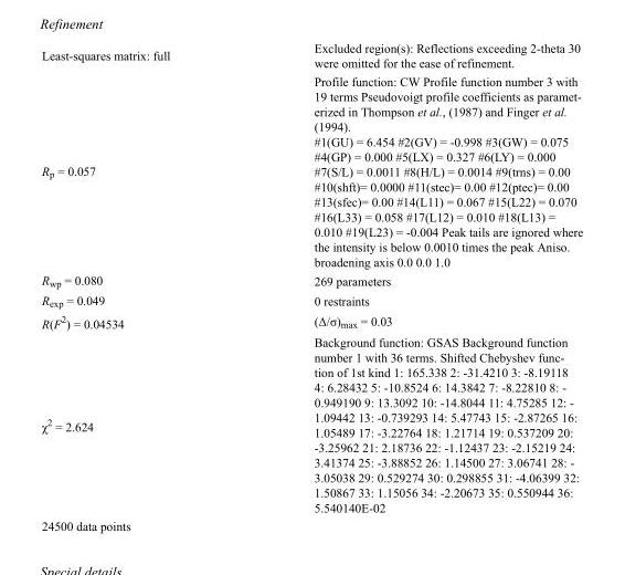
<table><tbody><tr><td>Least-squares matrix: full</td><td>Excluded region(s): Reflections exceeding 2-theta 30 were omitted for the ease of refinement.</td></tr><tr><td>R<sub>p</sub> = 0.057</td><td>Profile function: CW Profile function number 3 with 19 terms Pseudovoigt profile coefficients as paramet- erized in Thompson et al., (1987) and Finger et al. (1994). #1(GU) = 6.454 #2(GV) = -0.998 #3(GW) = 0.075 #4(GP) = 0.000 #5(LX) = 0.327 #6(LY) = 0.000 #7(S/L) = 0.0011 #8(H/L) = 0.0014 #9(trns) = 0.00 #10(shft)= 0.0000 #11(stec)= 0.00 #12(ptec)= 0.00 #13(sfec)= 0.00 #14(L11) = 0.067 #15(L22) = 0.070 #16(L33) = 0.058 #17(L12) = 0.010 #18(L13) = 0.010 #19(L23) = -0.004 Peak tails are ignored where the intensity is below 0.0010 times the peak Aniso. broadening axis 0.0 0.0 1.0</td></tr><tr><td>R<sub>wp</sub> = 0.080</td><td>269 parameters</td></tr><tr><td>R<sub>exp</sub> = 0.049</td><td>0 restraints</td></tr><tr><td>R(F<sup>2</sup>) = 0.04534</td><td>(Δ/σ)<sub>max</sub> = 0.03</td></tr><tr><td>χ<sup>2</sup> = 2.624</td><td>Background function: GSAS Background function number 1 with 36 terms. Shifted Chebyshev func- tion of 1st kind 1: 165.338 2: -31.4210 3: -8.19118 4: 6.28432 5: -10.8524 6: 14.3842 7: -8.22810 8: - 0.949190 9: 13.3092 10: -14.8044 11: 4.75285 12: - 1.09442 13: -0.739293 14: 5.47743 15: -2.87265 16: 1.05489 17: -3.22764 18: 1.21714 19: 0.537209 20: -3.25962 21: 2.18736 22: -1.12437 23: -2.15219 24: 3.41374 25: -3.88852 26: 1.14500 27: 3.06741 28: - 3.05038 29: 0.529274 30: 0.298855 31: -4.06399 32: 1.50867 33: 1.15056 34: -2.20673 35: 0.550944 36: 5.540140E-02</td></tr><tr><td>24500 data points</td><td></td></tr></tbody></table>